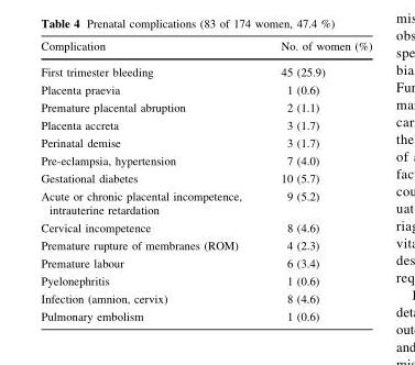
<table><thead><tr><td>Complication</td><td>No. of women (%)</td></tr></thead><tbody><tr><td>First trimester bleeding</td><td>45 (25.9)</td></tr><tr><td>Placenta praevia</td><td>1 (0.6)</td></tr><tr><td>Premature placental abruption</td><td>2 (1.1)</td></tr><tr><td>Placenta accreta</td><td>3 (1.7)</td></tr><tr><td>Perinatal demise</td><td>3 (1.7)</td></tr><tr><td>Pre-eclampsia, hypertension</td><td>7 (4.0)</td></tr><tr><td>Gestational diabetes</td><td>10 (5.7)</td></tr><tr><td>Acute or chronic placental incompetence, intrauterine retardation</td><td>9 (5.2)</td></tr><tr><td>Cervical incompetence</td><td>8 (4.6)</td></tr><tr><td>Premature rupture of membranes (ROM)</td><td>4 (2.3)</td></tr><tr><td>Premature labour</td><td>6 (3.4)</td></tr><tr><td>Pyelonephritis</td><td>1 (0.6)</td></tr><tr><td>Infection (amnion, cervix)</td><td>8 (4.6)</td></tr><tr><td>Pulmonary embolism</td><td>1 (0.6)</td></tr></tbody></table>